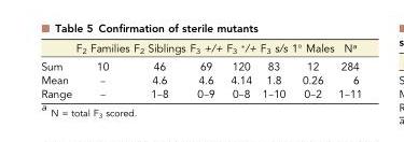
<table><thead><tr><td></td><td>F<sub>2</sub> Families</td><td>F<sub>2</sub> Siblings</td><td>F<sub>3</sub> +/+</td><td>F<sub>3</sub> */+</td><td>F<sub>3</sub> s/s</td><td>1° Males</td><td>N<sup>a</sup></td></tr></thead><tbody><tr><td>Sum</td><td>10</td><td>46</td><td>69</td><td>120</td><td>83</td><td>12</td><td>284</td></tr><tr><td>Mean</td><td>–</td><td>4.6</td><td>4.6</td><td>4.14</td><td>1.8</td><td>0.26</td><td>6</td></tr><tr><td>Range</td><td>–</td><td>1–8</td><td>0–9</td><td>0–8</td><td>1–10</td><td>0–2</td><td>1–11</td></tr></tbody></table>